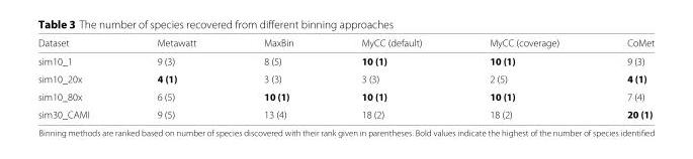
<table><thead><tr><td>Dataset</td><td>Metawatt</td><td>MaxBin</td><td>MyCC (default)</td><td>MyCC (coverage)</td><td>CoMet</td></tr></thead><tbody><tr><td>sim10_1</td><td>9 (3)</td><td>8 (5)</td><td>10 (1)</td><td>10 (1)</td><td>9 (3)</td></tr><tr><td>sim10_20x</td><td>4 (1)</td><td>3 (3)</td><td>3 (3)</td><td>2 (5)</td><td>4 (1)</td></tr><tr><td>sim10_80x</td><td>6 (5)</td><td>10 (1)</td><td>10 (1)</td><td>10 (1)</td><td>7 (4)</td></tr><tr><td>sim30_CAMI</td><td>9 (5)</td><td>13 (4)</td><td>18 (2)</td><td>18 (2)</td><td>20 (1)</td></tr></tbody></table>